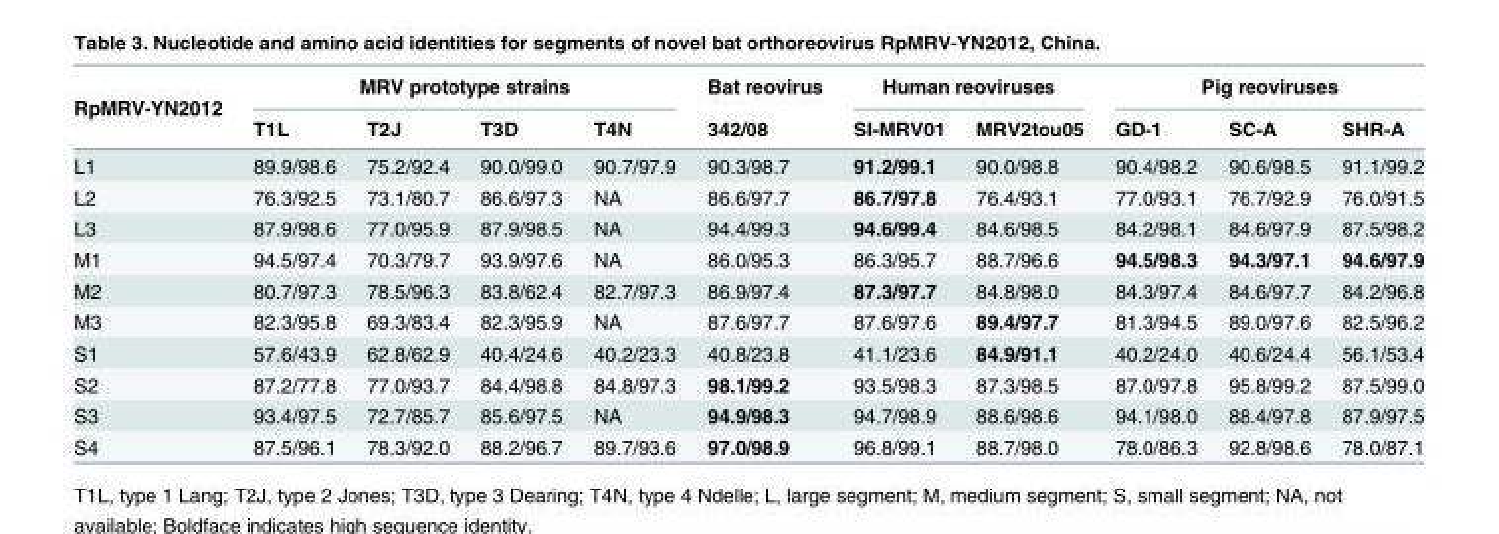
<table><thead><tr><td rowspan="2">RpMRV-YN2012</td><td colspan="4">MRV prototype strains</td><td rowspan="2">Bat reovirus 342/08</td><td colspan="2">Human reoviruses</td><td colspan="3">Pig reoviruses</td></tr><tr><td>T1L</td><td>T2J</td><td>T3D</td><td>T4N</td><td>SI-MRV01</td><td>MRV2tou05</td><td>GD-1</td><td>SC-A</td><td>SHR-A</td></tr></thead><tbody><tr><td>L1</td><td>89.9/98.6</td><td>75.2/92.4</td><td>90.0/99.0</td><td>90.7/97.9</td><td>90.3/98.7</td><td>91.2/99.1</td><td>90.0/98.8</td><td>90.4/98.2</td><td>90.6/98.5</td><td>91.1/99.2</td></tr><tr><td>L2</td><td>76.3/92.5</td><td>73.1/80.7</td><td>86.6/97.3</td><td>NA</td><td>86.6/97.7</td><td>86.7/97.8</td><td>76.4/93.1</td><td>77.0/93.1</td><td>76.7/92.9</td><td>76.0/91.5</td></tr><tr><td>L3</td><td>87.9/98.6</td><td>77.0/95.9</td><td>87.9/98.5</td><td>NA</td><td>94.4/99.3</td><td>94.6/99.4</td><td>84.6/98.5</td><td>84.2/98.1</td><td>84.6/97.9</td><td>87.5/98.2</td></tr><tr><td>M1</td><td>94.5/97.4</td><td>70.3/79.7</td><td>93.9/97.6</td><td>NA</td><td>86.0/95.3</td><td>86.3/95.7</td><td>88.7/96.6</td><td>94.5/98.3</td><td>94.3/97.1</td><td>94.6/97.9</td></tr><tr><td>M2</td><td>80.7/97.3</td><td>78.5/96.3</td><td>83.8/62.4</td><td>82.7/97.3</td><td>86.9/97.4</td><td>87.3/97.7</td><td>84.8/98.0</td><td>84.3/97.4</td><td>84.6/97.7</td><td>84.2/96.8</td></tr><tr><td>M3</td><td>82.3/95.8</td><td>69.3/83.4</td><td>82.3/95.9</td><td>NA</td><td>87.6/97.7</td><td>87.6/97.6</td><td>89.4/97.7</td><td>81.3/94.5</td><td>89.0/97.6</td><td>82.5/96.2</td></tr><tr><td>S1</td><td>57.6/43.9</td><td>62.8/62.9</td><td>40.4/24.6</td><td>40.2/23.3</td><td>40.8/23.8</td><td>41.1/23.6</td><td>84.9/91.1</td><td>40.2/24.0</td><td>40.6/24.4</td><td>56.1/53.4</td></tr><tr><td>S2</td><td>87.2/77.8</td><td>77.0/93.7</td><td>84.4/98.8</td><td>84.8/97.3</td><td>98.1/99.2</td><td>93.5/98.3</td><td>87.3/98.5</td><td>87.0/97.8</td><td>95.8/99.2</td><td>87.5/99.0</td></tr><tr><td>S3</td><td>93.4/97.5</td><td>72.7/85.7</td><td>85.6/97.5</td><td>NA</td><td>94.9/98.3</td><td>94.7/98.9</td><td>88.6/98.6</td><td>94.1/98.0</td><td>88.4/97.8</td><td>87.9/97.5</td></tr><tr><td>S4</td><td>87.5/96.1</td><td>78.3/92.0</td><td>88.2/96.7</td><td>89.7/93.6</td><td>97.0/98.9</td><td>96.8/99.1</td><td>88.7/98.0</td><td>78.0/86.3</td><td>92.8/98.6</td><td>78.0/87.1</td></tr></tbody></table>